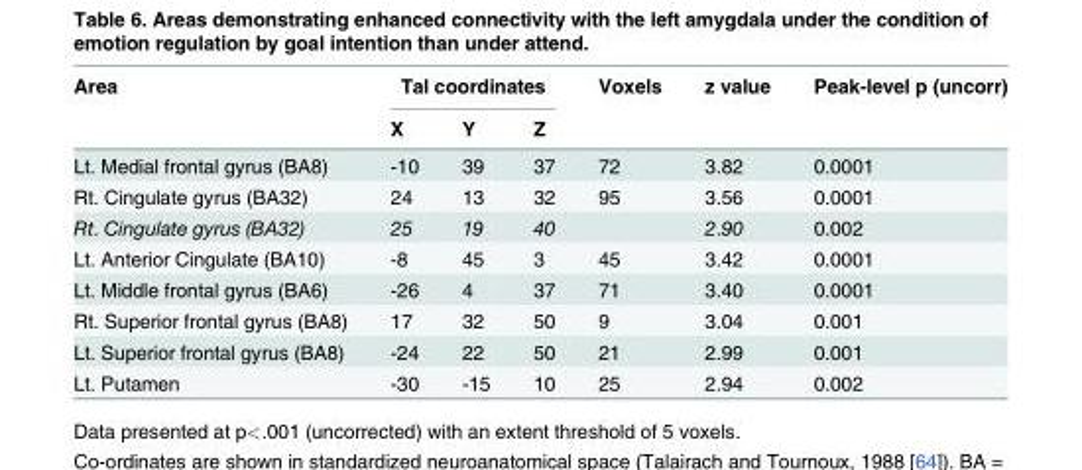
<table><thead><tr><td rowspan="2">Area</td><td colspan="3">Tal coordinates</td><td rowspan="2">Voxels</td><td rowspan="2">z value</td><td rowspan="2">Peak-level p (uncorr)</td></tr><tr><td>X</td><td>Y</td><td>Z</td></tr></thead><tbody><tr><td>Lt. Medial frontal gyrus (BA8)</td><td>-10</td><td>39</td><td>37</td><td>72</td><td>3.82</td><td>0.0001</td></tr><tr><td>Rt. Cingulate gyrus (BA32)</td><td>24</td><td>13</td><td>32</td><td>95</td><td>3.56</td><td>0.0001</td></tr><tr><td>Rt. Cingulate gyrus (BA32)</td><td>25</td><td>19</td><td>40</td><td></td><td>2.90</td><td>0.002</td></tr><tr><td>Lt. Anterior Cingulate (BA10)</td><td>-8</td><td>45</td><td>3</td><td>45</td><td>3.42</td><td>0.0001</td></tr><tr><td>Lt. Middle frontal gyrus (BA6)</td><td>-26</td><td>4</td><td>37</td><td>71</td><td>3.40</td><td>0.0001</td></tr><tr><td>Rt. Superior frontal gyrus (BA8)</td><td>17</td><td>32</td><td>50</td><td>9</td><td>3.04</td><td>0.001</td></tr><tr><td>Lt. Superior frontal gyrus (BA8)</td><td>-24</td><td>22</td><td>50</td><td>21</td><td>2.99</td><td>0.001</td></tr><tr><td>Lt. Putamen</td><td>-30</td><td>-15</td><td>10</td><td>25</td><td>2.94</td><td>0.002</td></tr></tbody></table>